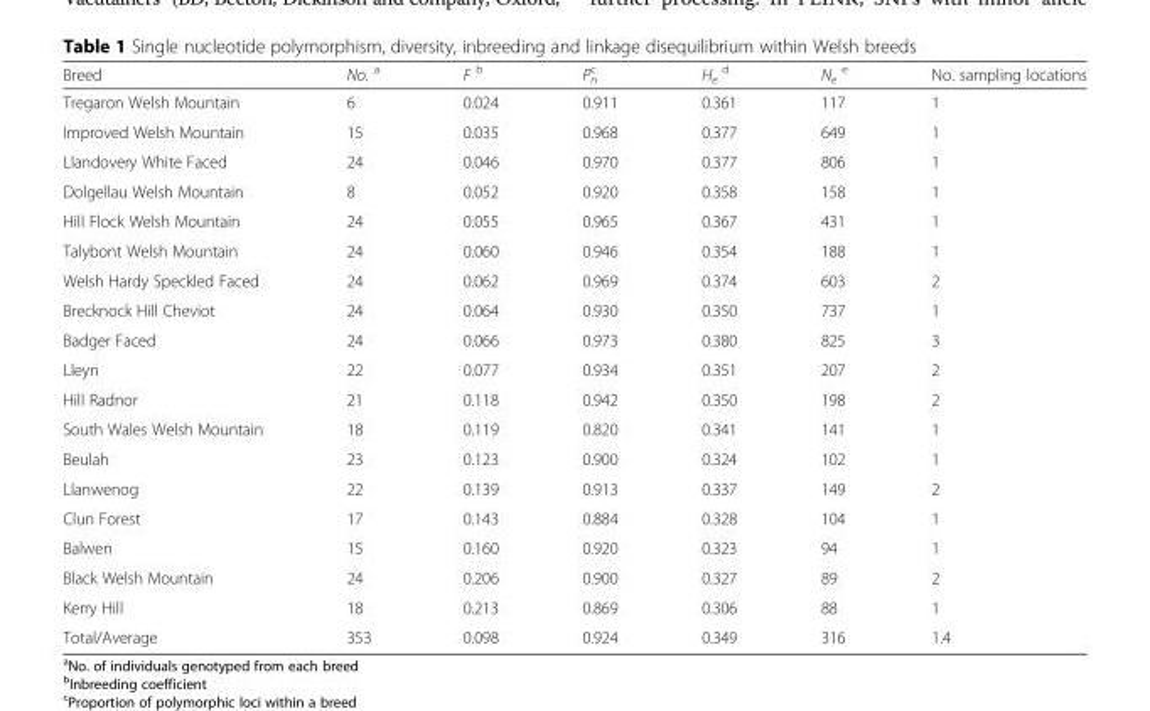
<table><thead><tr><td>Breed</td><td>No. <sup>a</sup></td><td>F <sup>b</sup></td><td>P<sub>n</sub> <sup>c</sup></td><td>H<sub>e</sub> <sup>d</sup></td><td>N<sub>e</sub> <sup>e</sup></td><td>No. sampling locations</td></tr></thead><tbody><tr><td>Tregaron Welsh Mountain</td><td>6</td><td>0.024</td><td>0.911</td><td>0.361</td><td>117</td><td>1</td></tr><tr><td>Improved Welsh Mountain</td><td>15</td><td>0.035</td><td>0.968</td><td>0.377</td><td>649</td><td>1</td></tr><tr><td>Llandovery White Faced</td><td>24</td><td>0.046</td><td>0.970</td><td>0.377</td><td>806</td><td>1</td></tr><tr><td>Dolgellau Welsh Mountain</td><td>8</td><td>0.052</td><td>0.920</td><td>0.358</td><td>158</td><td>1</td></tr><tr><td>Hill Flock Welsh Mountain</td><td>24</td><td>0.055</td><td>0.965</td><td>0.367</td><td>431</td><td>1</td></tr><tr><td>Talybont Welsh Mountain</td><td>24</td><td>0.060</td><td>0.946</td><td>0.354</td><td>188</td><td>1</td></tr><tr><td>Welsh Hardy Speckled Faced</td><td>24</td><td>0.062</td><td>0.969</td><td>0.374</td><td>603</td><td>2</td></tr><tr><td>Brecknock Hill Cheviot</td><td>24</td><td>0.064</td><td>0.930</td><td>0.350</td><td>737</td><td>1</td></tr><tr><td>Badger Faced</td><td>24</td><td>0.066</td><td>0.973</td><td>0.380</td><td>825</td><td>3</td></tr><tr><td>Lleyn</td><td>22</td><td>0.077</td><td>0.934</td><td>0.351</td><td>207</td><td>2</td></tr><tr><td>Hill Radnor</td><td>21</td><td>0.118</td><td>0.942</td><td>0.350</td><td>198</td><td>2</td></tr><tr><td>South Wales Welsh Mountain</td><td>18</td><td>0.119</td><td>0.820</td><td>0.341</td><td>141</td><td>1</td></tr><tr><td>Beulah</td><td>23</td><td>0.123</td><td>0.900</td><td>0.324</td><td>102</td><td>1</td></tr><tr><td>Llanwenog</td><td>22</td><td>0.139</td><td>0.913</td><td>0.337</td><td>149</td><td>2</td></tr><tr><td>Clun Forest</td><td>17</td><td>0.143</td><td>0.884</td><td>0.328</td><td>104</td><td>1</td></tr><tr><td>Balwen</td><td>15</td><td>0.160</td><td>0.920</td><td>0.323</td><td>94</td><td>1</td></tr><tr><td>Black Welsh Mountain</td><td>24</td><td>0.206</td><td>0.900</td><td>0.327</td><td>89</td><td>2</td></tr><tr><td>Kerry Hill</td><td>18</td><td>0.213</td><td>0.869</td><td>0.306</td><td>88</td><td>1</td></tr><tr><td>Total/Average</td><td>353</td><td>0.098</td><td>0.924</td><td>0.349</td><td>316</td><td>1.4</td></tr></tbody></table>